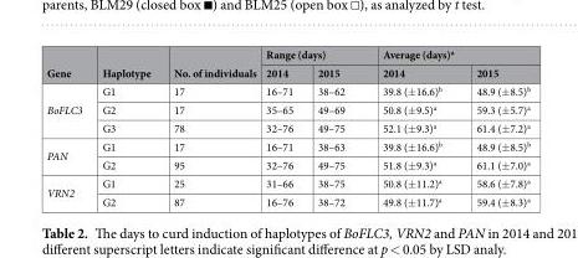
<table><thead><tr><td rowspan="2">Gene</td><td rowspan="2">Haplotype</td><td rowspan="2">No. of individuals</td><td colspan="2">Range (days)</td><td colspan="2">Average (days)<sup>a</sup></td></tr><tr><td>2014</td><td>2015</td><td>2014</td><td>2015</td></tr></thead><tbody><tr><td rowspan="3">BoFLC3</td><td>G1</td><td>17</td><td>16–71</td><td>38–62</td><td>39.8 (±16.6)<sup>b</sup></td><td>48.9 (±8.5)<sup>b</sup></td></tr><tr><td>G2</td><td>17</td><td>35–65</td><td>49–69</td><td>50.8 (±9.5)<sup>a</sup></td><td>59.3 (±5.7)<sup>a</sup></td></tr><tr><td>G3</td><td>78</td><td>32–76</td><td>49–75</td><td>52.1 (±9.3)<sup>a</sup></td><td>61.4 (±7.2)<sup>a</sup></td></tr><tr><td rowspan="2">PAN</td><td>G1</td><td>17</td><td>16–71</td><td>38–63</td><td>39.8 (±16.6)<sup>b</sup></td><td>48.9 (±8.5)<sup>b</sup></td></tr><tr><td>G2</td><td>95</td><td>32–76</td><td>49–75</td><td>51.8 (±9.3)<sup>a</sup></td><td>61.1 (±7.0)<sup>a</sup></td></tr><tr><td rowspan="2">VRN2</td><td>G1</td><td>25</td><td>31–66</td><td>38–75</td><td>50.8 (±11.2)<sup>a</sup></td><td>58.6 (±7.8)<sup>a</sup></td></tr><tr><td>G2</td><td>87</td><td>16–76</td><td>38–72</td><td>49.8 (±11.7)<sup>a</sup></td><td>59.4 (±8.3)<sup>a</sup></td></tr></tbody></table>